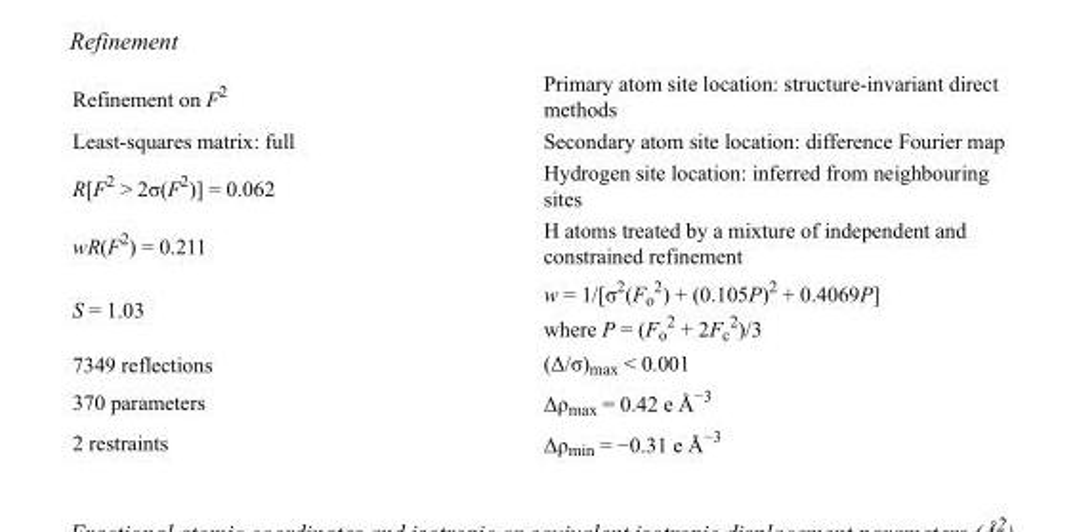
<table><tbody><tr><td>Refinement on F<sup>2</sup></td><td>Primary atom site location: structure-invariant direct methods</td></tr><tr><td>Least-squares matrix: full</td><td>Secondary atom site location: difference Fourier map</td></tr><tr><td>R[F<sup>2</sup> &gt; 2σ(F<sup>2</sup>)] = 0.062</td><td>Hydrogen site location: inferred from neighbouring sites</td></tr><tr><td>wR(F<sup>2</sup>) = 0.211</td><td>H atoms treated by a mixture of independent and constrained refinement</td></tr><tr><td>S = 1.03</td><td>w = 1/[σ<sup>2</sup>(F<sub>o</sub> <sup>2</sup>) + (0.105P)<sup>2</sup> + 0.4069P] where P = (F<sub>o</sub> <sup>2</sup> + 2F<sub>c</sub> <sup>2</sup>)/3</td></tr><tr><td>7349 reflections</td><td>(Δ/σ)<sub>max</sub> &lt; 0.001</td></tr><tr><td>370 parameters</td><td>Δρ<sub>max</sub> = 0.42 e Å<sup>−3</sup></td></tr><tr><td>2 restraints</td><td>Δρ<sub>min</sub> = −0.31 e Å<sup>−3</sup></td></tr></tbody></table>